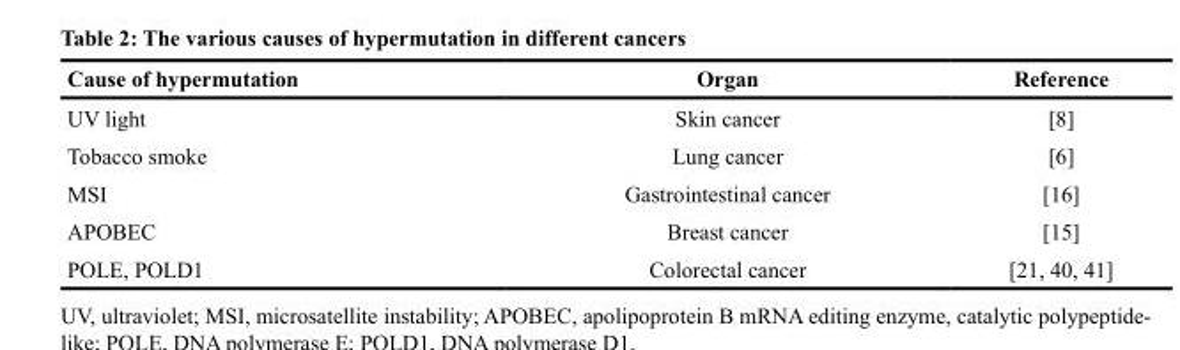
<table><thead><tr><td>Cause of hypermutation</td><td>Organ</td><td>Reference</td></tr></thead><tbody><tr><td>UV light</td><td>Skin cancer</td><td>[8]</td></tr><tr><td>Tobacco smoke</td><td>Lung cancer</td><td>[6]</td></tr><tr><td>MSI</td><td>Gastrointestinal cancer</td><td>[16]</td></tr><tr><td>APOBEC</td><td>Breast cancer</td><td>[15]</td></tr><tr><td>POLE, POLD1</td><td>Colorectal cancer</td><td>[21, 40, 41]</td></tr></tbody></table>